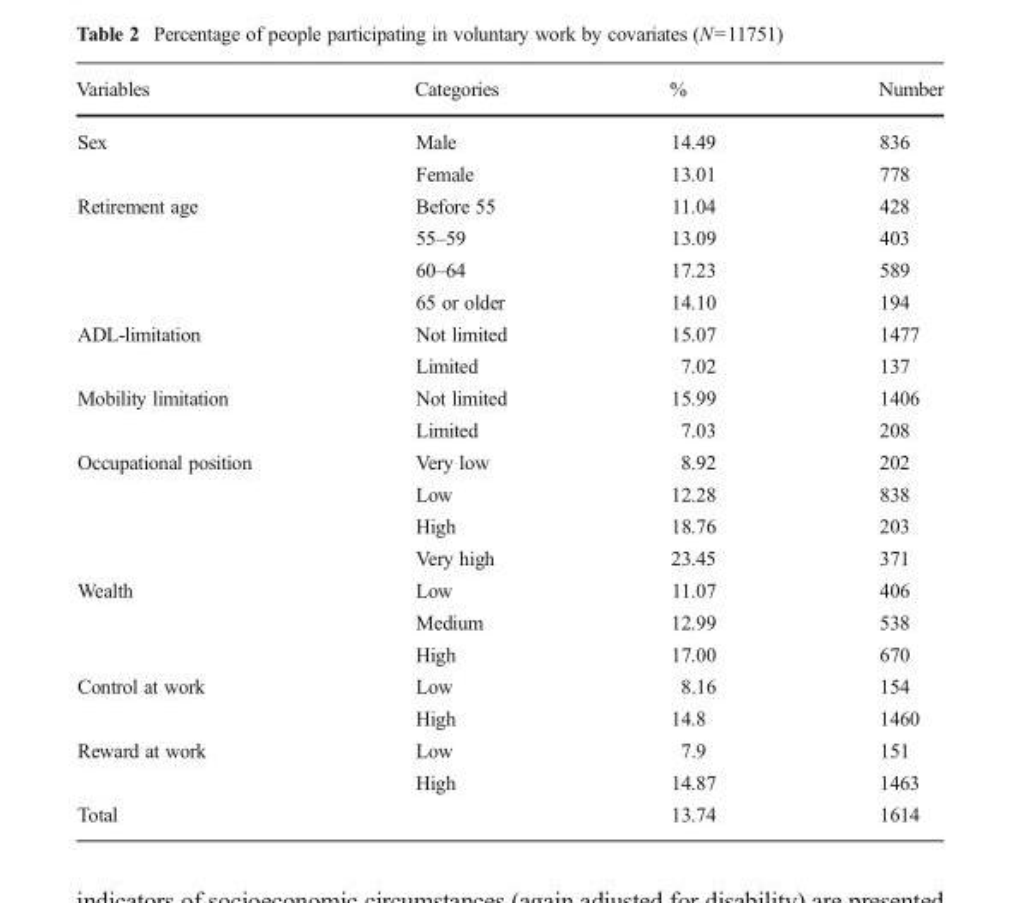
<table><thead><tr><td>Variables</td><td>Categories</td><td>%</td><td>Number</td></tr></thead><tbody><tr><td rowspan="2">Sex</td><td>Male</td><td>14.49</td><td>836</td></tr><tr><td>Female</td><td>13.01</td><td>778</td></tr><tr><td rowspan="4">Retirement age</td><td>Before 55</td><td>11.04</td><td>428</td></tr><tr><td>55–59</td><td>13.09</td><td>403</td></tr><tr><td>60–64</td><td>17.23</td><td>589</td></tr><tr><td>65 or older</td><td>14.10</td><td>194</td></tr><tr><td rowspan="2">ADL-limitation</td><td>Not limited</td><td>15.07</td><td>1477</td></tr><tr><td>Limited</td><td>7.02</td><td>137</td></tr><tr><td rowspan="2">Mobility limitation</td><td>Not limited</td><td>15.99</td><td>1406</td></tr><tr><td>Limited</td><td>7.03</td><td>208</td></tr><tr><td rowspan="4">Occupational position</td><td>Very low</td><td>8.92</td><td>202</td></tr><tr><td>Low</td><td>12.28</td><td>838</td></tr><tr><td>High</td><td>18.76</td><td>203</td></tr><tr><td>Very high</td><td>23.45</td><td>371</td></tr><tr><td rowspan="3">Wealth</td><td>Low</td><td>11.07</td><td>406</td></tr><tr><td>Medium</td><td>12.99</td><td>538</td></tr><tr><td>High</td><td>17.00</td><td>670</td></tr><tr><td rowspan="2">Control at work</td><td>Low</td><td>8.16</td><td>154</td></tr><tr><td>High</td><td>14.8</td><td>1460</td></tr><tr><td rowspan="2">Reward at work</td><td>Low</td><td>7.9</td><td>151</td></tr><tr><td>High</td><td>14.87</td><td>1463</td></tr><tr><td>Total</td><td></td><td>13.74</td><td>1614</td></tr></tbody></table>